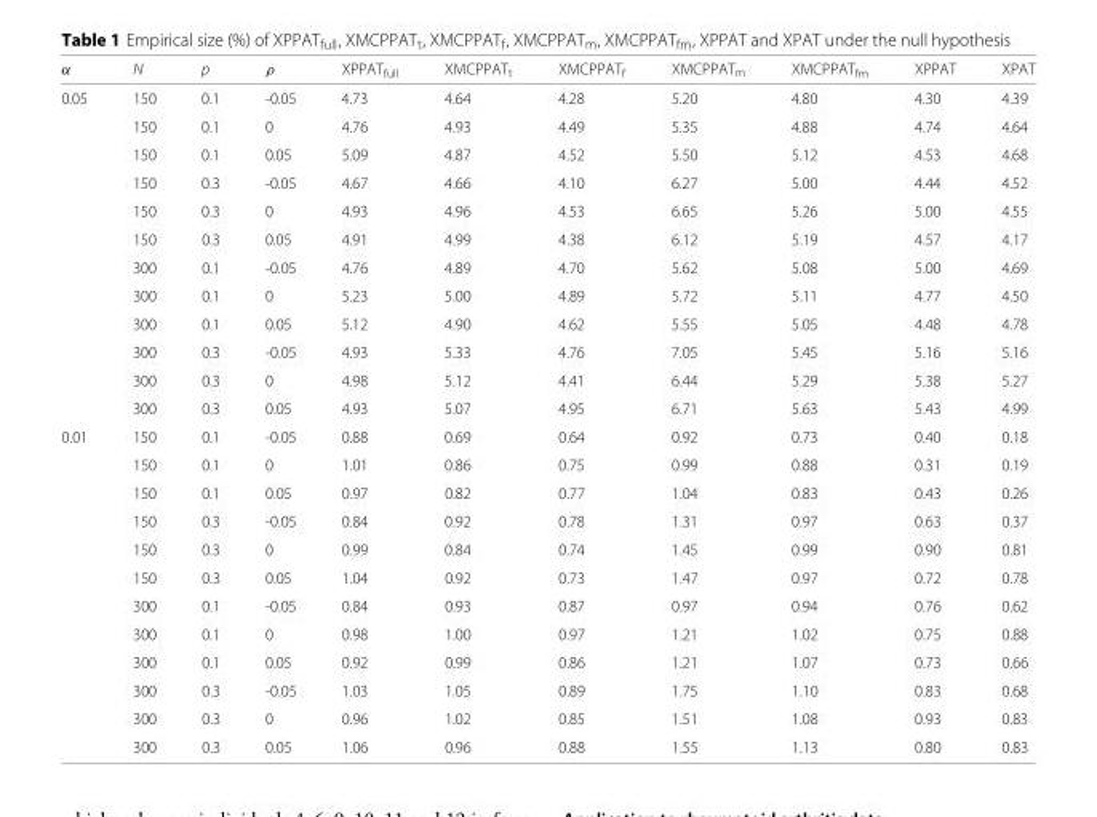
<table><thead><tr><td>α</td><td>N</td><td>p</td><td>ρ</td><td>XPPAT<sub>full</sub></td><td>XMCPPAT<sub>t</sub></td><td>XMCPPAT<sub>f</sub></td><td>XMCPPAT<sub>m</sub></td><td>XMCPPAT<sub>fm</sub></td><td>XPPAT</td><td>XPAT</td></tr></thead><tbody><tr><td rowspan="12">0.05</td><td>150</td><td>0.1</td><td>-0.05</td><td>4.73</td><td>4.64</td><td>4.28</td><td>5.20</td><td>4.80</td><td>4.30</td><td>4.39</td></tr><tr><td>150</td><td>0.1</td><td>0</td><td>4.76</td><td>4.93</td><td>4.49</td><td>5.35</td><td>4.88</td><td>4.74</td><td>4.64</td></tr><tr><td>150</td><td>0.1</td><td>0.05</td><td>5.09</td><td>4.87</td><td>4.52</td><td>5.50</td><td>5.12</td><td>4.53</td><td>4.68</td></tr><tr><td>150</td><td>0.3</td><td>-0.05</td><td>4.67</td><td>4.66</td><td>4.10</td><td>6.27</td><td>5.00</td><td>4.44</td><td>4.52</td></tr><tr><td>150</td><td>0.3</td><td>0</td><td>4.93</td><td>4.96</td><td>4.53</td><td>6.65</td><td>5.26</td><td>5.00</td><td>4.55</td></tr><tr><td>150</td><td>0.3</td><td>0.05</td><td>4.91</td><td>4.99</td><td>4.38</td><td>6.12</td><td>5.19</td><td>4.57</td><td>4.17</td></tr><tr><td>300</td><td>0.1</td><td>-0.05</td><td>4.76</td><td>4.89</td><td>4.70</td><td>5.62</td><td>5.08</td><td>5.00</td><td>4.69</td></tr><tr><td>300</td><td>0.1</td><td>0</td><td>5.23</td><td>5.00</td><td>4.89</td><td>5.72</td><td>5.11</td><td>4.77</td><td>4.50</td></tr><tr><td>300</td><td>0.1</td><td>0.05</td><td>5.12</td><td>4.90</td><td>4.62</td><td>5.55</td><td>5.05</td><td>4.48</td><td>4.78</td></tr><tr><td>300</td><td>0.3</td><td>-0.05</td><td>4.93</td><td>5.33</td><td>4.76</td><td>7.05</td><td>5.45</td><td>5.16</td><td>5.16</td></tr><tr><td>300</td><td>0.3</td><td>0</td><td>4.98</td><td>5.12</td><td>4.41</td><td>6.44</td><td>5.29</td><td>5.38</td><td>5.27</td></tr><tr><td>300</td><td>0.3</td><td>0.05</td><td>4.93</td><td>5.07</td><td>4.95</td><td>6.71</td><td>5.63</td><td>5.43</td><td>4.99</td></tr><tr><td rowspan="12">0.01</td><td>150</td><td>0.1</td><td>-0.05</td><td>0.88</td><td>0.69</td><td>0.64</td><td>0.92</td><td>0.73</td><td>0.40</td><td>0.18</td></tr><tr><td>150</td><td>0.1</td><td>0</td><td>1.01</td><td>0.86</td><td>0.75</td><td>0.99</td><td>0.88</td><td>0.31</td><td>0.19</td></tr><tr><td>150</td><td>0.1</td><td>0.05</td><td>0.97</td><td>0.82</td><td>0.77</td><td>1.04</td><td>0.83</td><td>0.43</td><td>0.26</td></tr><tr><td>150</td><td>0.3</td><td>-0.05</td><td>0.84</td><td>0.92</td><td>0.78</td><td>1.31</td><td>0.97</td><td>0.63</td><td>0.37</td></tr><tr><td>150</td><td>0.3</td><td>0</td><td>0.99</td><td>0.84</td><td>0.74</td><td>1.45</td><td>0.99</td><td>0.90</td><td>0.81</td></tr><tr><td>150</td><td>0.3</td><td>0.05</td><td>1.04</td><td>0.92</td><td>0.73</td><td>1.47</td><td>0.97</td><td>0.72</td><td>0.78</td></tr><tr><td>300</td><td>0.1</td><td>-0.05</td><td>0.84</td><td>0.93</td><td>0.87</td><td>0.97</td><td>0.94</td><td>0.76</td><td>0.62</td></tr><tr><td>300</td><td>0.1</td><td>0</td><td>0.98</td><td>1.00</td><td>0.97</td><td>1.21</td><td>1.02</td><td>0.75</td><td>0.88</td></tr><tr><td>300</td><td>0.1</td><td>0.05</td><td>0.92</td><td>0.99</td><td>0.86</td><td>1.21</td><td>1.07</td><td>0.73</td><td>0.66</td></tr><tr><td>300</td><td>0.3</td><td>-0.05</td><td>1.03</td><td>1.05</td><td>0.89</td><td>1.75</td><td>1.10</td><td>0.83</td><td>0.68</td></tr><tr><td>300</td><td>0.3</td><td>0</td><td>0.96</td><td>1.02</td><td>0.85</td><td>1.51</td><td>1.08</td><td>0.93</td><td>0.83</td></tr><tr><td>300</td><td>0.3</td><td>0.05</td><td>1.06</td><td>0.96</td><td>0.88</td><td>1.55</td><td>1.13</td><td>0.80</td><td>0.83</td></tr></tbody></table>